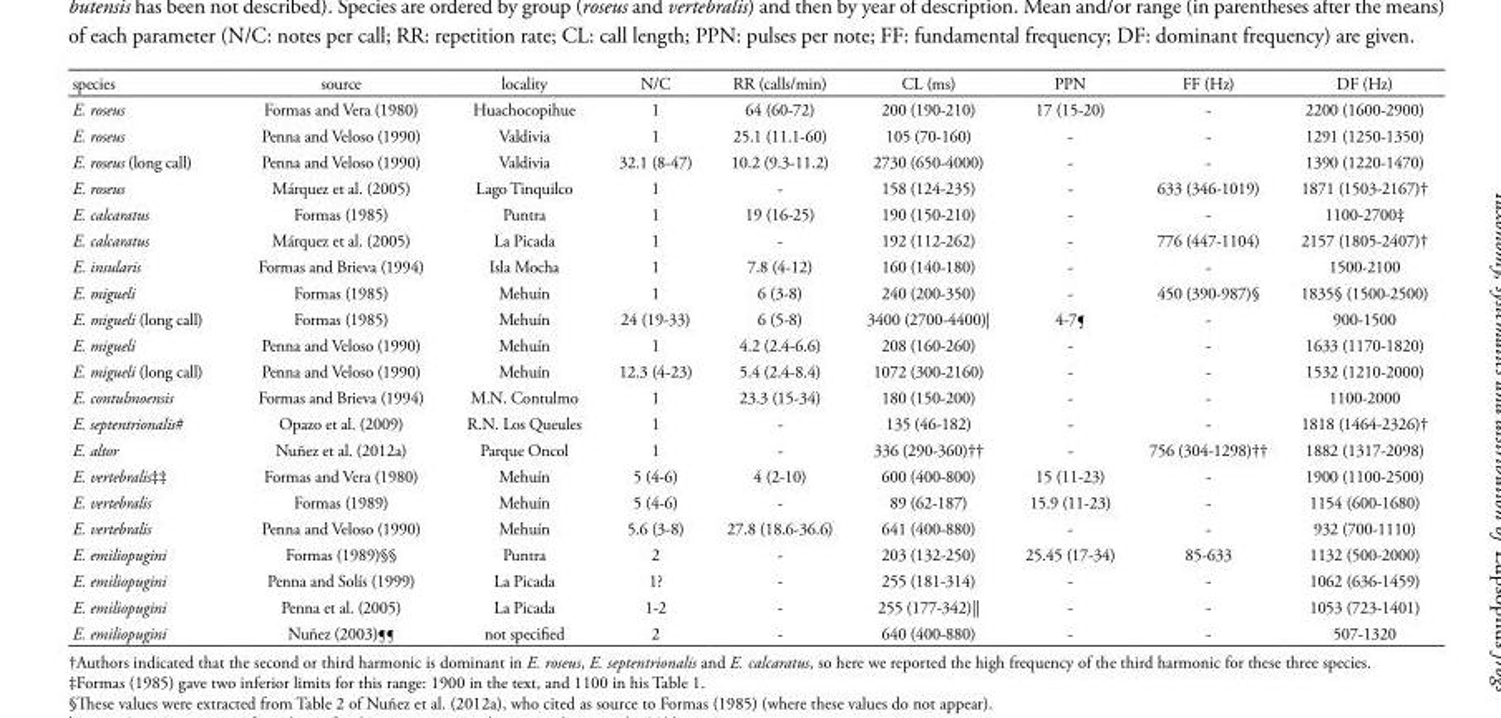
<table><tbody><tr><td>species</td><td>source</td><td>locality</td><td>N/C</td><td>RR (calls/min)</td><td>CL (ms)</td><td>PPN</td><td>FF (Hz)</td><td>DF (Hz)</td></tr><tr><td>E. roseus</td><td>Formas and Vera (1980)</td><td>Huachocopihue</td><td>1</td><td>64 (60-72)</td><td>200 (190-210)</td><td>17 (15-20)</td><td>-</td><td>2200 (1600-2900)</td></tr><tr><td>E. roseus</td><td>Penna and Veloso (1990)</td><td>Valdivia</td><td>1</td><td>25.1 (11.1-60)</td><td>105 (70-160)</td><td>-</td><td>-</td><td>1291 (1250-1350)</td></tr><tr><td>E. roseus (long call)</td><td>Penna and Veloso (1990)</td><td>Valdivia</td><td>32.1 (8-47)</td><td>10.2 (9.3-11.2)</td><td>2730 (650-4000)</td><td>-</td><td>-</td><td>1390 (1220-1470)</td></tr><tr><td>E. roseus</td><td>Márquez et al. (2005)</td><td>Lago Tinquilco</td><td>1</td><td>-</td><td>158 (124-235)</td><td>-</td><td>633 (346-1019)</td><td>1871 (1503-2167)†</td></tr><tr><td>E. calcaratus</td><td>Formas (1985)</td><td>Puntra</td><td>1</td><td>19 (16-25)</td><td>190 (150-210)</td><td>-</td><td>-</td><td>1100-2700‡</td></tr><tr><td>E. calcaratus</td><td>Márquez et al. (2005)</td><td>La Picada</td><td>1</td><td>-</td><td>192 (112-262)</td><td>-</td><td>776 (447-1104)</td><td>2157 (1805-2407)†</td></tr><tr><td>E. insularis</td><td>Formas and Brieva (1994)</td><td>Isla Mocha</td><td>1</td><td>7.8 (4-12)</td><td>160 (140-180)</td><td>-</td><td>-</td><td>1500-2100</td></tr><tr><td>E. migueli</td><td>Formas (1985)</td><td>Mehuín</td><td>1</td><td>6 (3-8)</td><td>240 (200-350)</td><td>-</td><td>450 (390-987)§</td><td>1835§ (1500-2500)</td></tr><tr><td>E. migueli (long call)</td><td>Formas (1985)</td><td>Mehuín</td><td>24 (19-33)</td><td>6 (5-8)</td><td>3400 (2700-4400)|</td><td>4-7¶</td><td>-</td><td>900-1500</td></tr><tr><td>E. migueli</td><td>Penna and Veloso (1990)</td><td>Mehuín</td><td>1</td><td>4.2 (2.4-6.6)</td><td>208 (160-260)</td><td>-</td><td>-</td><td>1633 (1170-1820)</td></tr><tr><td>E. migueli (long call)</td><td>Penna and Veloso (1990)</td><td>Mehuín</td><td>12.3 (4-23)</td><td>5.4 (2.4-8.4)</td><td>1072 (300-2160)</td><td>-</td><td>-</td><td>1532 (1210-2000)</td></tr><tr><td>E. contulmoensis</td><td>Formas and Brieva (1994)</td><td>M.N. Contulmo</td><td>1</td><td>23.3 (15-34)</td><td>180 (150-200)</td><td>-</td><td>-</td><td>1100-2000</td></tr><tr><td>E. septentrionalis#</td><td>Opazo et al. (2009)</td><td>R.N. Los Queules</td><td>1</td><td>-</td><td>135 (46-182)</td><td>-</td><td>-</td><td>1818 (1464-2326)†</td></tr><tr><td>E. altor</td><td>Nuñez et al. (2012a)</td><td>Parque Oncol</td><td>1</td><td>-</td><td>336 (290-360)††</td><td>-</td><td>756 (304-1298)††</td><td>1882 (1317-2098)</td></tr><tr><td>E. vertebralis‡‡</td><td>Formas and Vera (1980)</td><td>Mehuín</td><td>5 (4-6)</td><td>4 (2-10)</td><td>600 (400-800)</td><td>15 (11-23)</td><td>-</td><td>1900 (1100-2500)</td></tr><tr><td>E. vertebralis</td><td>Formas (1989)</td><td>Mehuín</td><td>5 (4-6)</td><td>-</td><td>89 (62-187)</td><td>15.9 (11-23)</td><td>-</td><td>1154 (600-1680)</td></tr><tr><td>E. vertebralis</td><td>Penna and Veloso (1990)</td><td>Mehuín</td><td>5.6 (3-8)</td><td>27.8 (18.6-36.6)</td><td>641 (400-880)</td><td>-</td><td>-</td><td>932 (700-1110)</td></tr><tr><td>E. emiliopugini</td><td>Formas (1989)§§</td><td>Puntra</td><td>2</td><td>-</td><td>203 (132-250)</td><td>25.45 (17-34)</td><td>85-633</td><td>1132 (500-2000)</td></tr><tr><td>E. emiliopugini</td><td>Penna and Solís (1999)</td><td>La Picada</td><td>1?</td><td>-</td><td>255 (181-314)</td><td>-</td><td>-</td><td>1062 (636-1459)</td></tr><tr><td>E. emiliopugini</td><td>Penna et al. (2005)</td><td>La Picada</td><td>1-2</td><td>-</td><td>255 (177-342)||</td><td>-</td><td>-</td><td>1053 (723-1401)</td></tr><tr><td>E. emiliopugini</td><td>Nuñez (2003)¶¶</td><td>not specified</td><td>2</td><td>-</td><td>640 (400-880)</td><td>-</td><td>-</td><td>507-1320</td></tr></tbody></table>